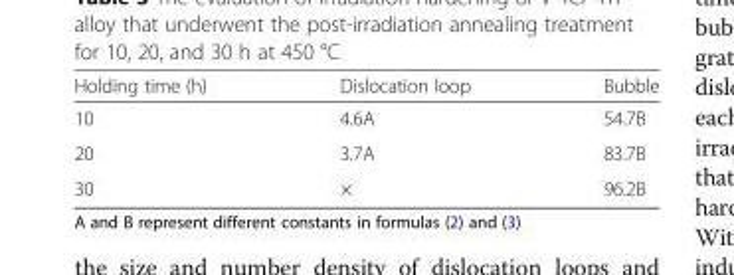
<table><thead><tr><td>Holding time (h)</td><td>Dislocation loop</td><td>Bubble</td></tr></thead><tbody><tr><td>10</td><td>4.6A</td><td>54.7B</td></tr><tr><td>20</td><td>3.7A</td><td>83.7B</td></tr><tr><td>30</td><td>×</td><td>96.2B</td></tr></tbody></table>